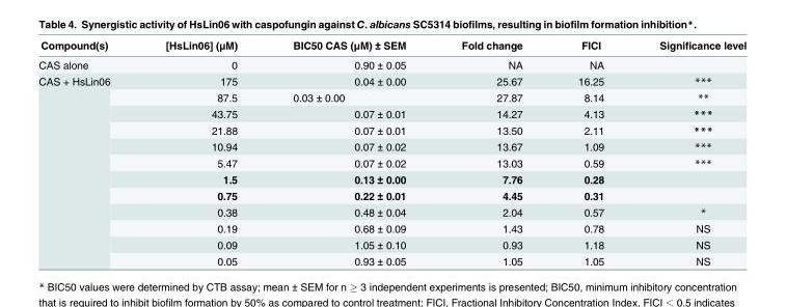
<table><thead><tr><td>Compound(s)</td><td>[HsLin06] (μM)</td><td>BIC50 CAS (μM) ± SEM</td><td>Fold change</td><td>FICI</td><td>Significance level</td></tr></thead><tbody><tr><td>CAS alone</td><td>0</td><td>0.90 ± 0.05</td><td>NA</td><td>NA</td><td></td></tr><tr><td rowspan="12">CAS + HsLin06</td><td>175</td><td>0.04 ± 0.00</td><td>25.67</td><td>16.25</td><td>***</td></tr><tr><td>87.5</td><td>0.03 ± 0.00</td><td>27.87</td><td>8.14</td><td>**</td></tr><tr><td>43.75</td><td>0.07 ± 0.01</td><td>14.27</td><td>4.13</td><td>***</td></tr><tr><td>21.88</td><td>0.07 ± 0.01</td><td>13.50</td><td>2.11</td><td>***</td></tr><tr><td>10.94</td><td>0.07 ± 0.02</td><td>13.67</td><td>1.09</td><td>***</td></tr><tr><td>5.47</td><td>0.07 ± 0.02</td><td>13.03</td><td>0.59</td><td>***</td></tr><tr><td>1.5</td><td>0.13 ± 0.00</td><td>7.76</td><td>0.28</td><td></td></tr><tr><td>0.75</td><td>0.22 ± 0.01</td><td>4.45</td><td>0.31</td><td></td></tr><tr><td>0.38</td><td>0.48 ± 0.04</td><td>2.04</td><td>0.57</td><td>*</td></tr><tr><td>0.19</td><td>0.68 ± 0.09</td><td>1.43</td><td>0.78</td><td>NS</td></tr><tr><td>0.09</td><td>1.05 ± 0.10</td><td>0.93</td><td>1.18</td><td>NS</td></tr><tr><td>0.05</td><td>0.93 ± 0.05</td><td>1.05</td><td>1.05</td><td>NS</td></tr></tbody></table>